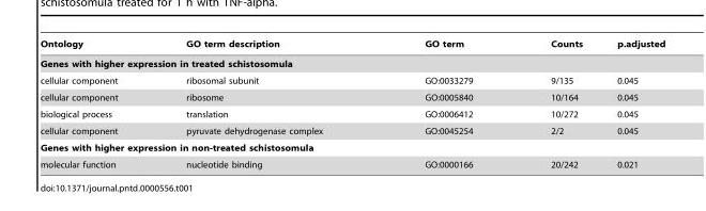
<table><thead><tr><td>Ontology</td><td>GO term description</td><td>GO term</td><td>Counts</td><td>p.adjusted</td></tr></thead><tbody><tr><td colspan="5">Genes with higher expression in treated schistosomula</td></tr><tr><td>cellular component</td><td>ribosomal subunit</td><td>GO:0033279</td><td>9/135</td><td>0.045</td></tr><tr><td>cellular component</td><td>ribosome</td><td>GO:0005840</td><td>10/164</td><td>0.045</td></tr><tr><td>biological process</td><td>translation</td><td>GO:0006412</td><td>10/272</td><td>0.045</td></tr><tr><td>cellular component</td><td>pyruvate dehydrogenase complex</td><td>GO:0045254</td><td>2/2</td><td>0.045</td></tr><tr><td colspan="5">Genes with higher expression in non-treated schistosomula</td></tr><tr><td>molecular function</td><td>nucleotide binding</td><td>GO:0000166</td><td>20/242</td><td>0.021</td></tr></tbody></table>